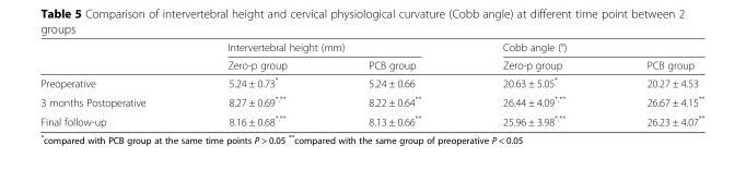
<table><thead><tr><td rowspan="2"></td><td colspan="2">Intervertebral height (mm)</td><td colspan="2">Cobb angle (°)</td></tr><tr><td>Zero-p group</td><td>PCB group</td><td>Zero-p group</td><td>PCB group</td></tr></thead><tbody><tr><td>Preoperative</td><td>5.24 ± 0.73*</td><td>5.24 ± 0.66</td><td>20.63 ± 5.05*</td><td>20.27 ± 4.53</td></tr><tr><td>3 months Postoperative</td><td>8.27 ± 0.69<sup>*,**</sup></td><td>8.22 ± 0.64**</td><td>26.44 ± 4.09<sup>*,**</sup></td><td>26.67 ± 4.15**</td></tr><tr><td>Final follow-up</td><td>8.16 ± 0.68<sup>*,**</sup></td><td>8.13 ± 0.66**</td><td>25.96 ± 3.98<sup>*,**</sup></td><td>26.23 ± 4.07**</td></tr></tbody></table>